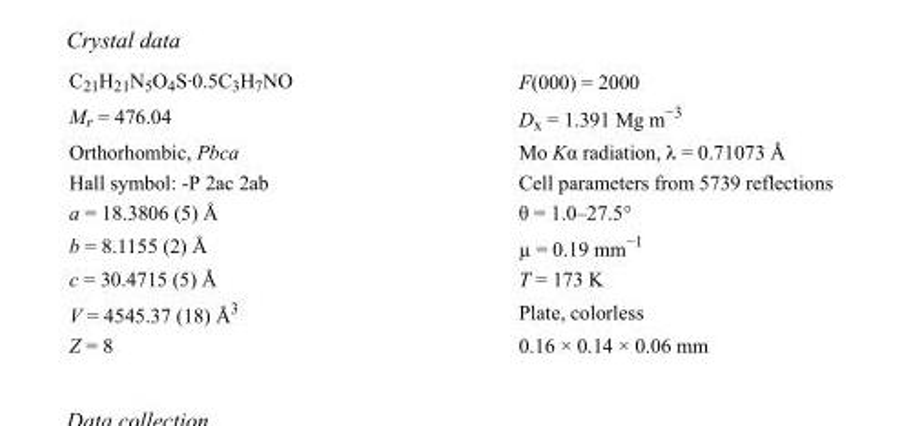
<table><tbody><tr><td>C<sub>21</sub>H<sub>21</sub>N<sub>5</sub>O<sub>4</sub>S·0.5C<sub>3</sub>H<sub>7</sub>NO</td><td>F(000) = 2000</td></tr><tr><td>M<sub>r</sub> = 476.04</td><td>D<sub>x</sub> = 1.391 Mg m<sup>−3</sup></td></tr><tr><td>Orthorhombic, Pbca</td><td>Mo Kα radiation, λ = 0.71073 Å</td></tr><tr><td>Hall symbol: -P 2ac 2ab</td><td>Cell parameters from 5739 reflections</td></tr><tr><td>a = 18.3806 (5) Å</td><td>θ = 1.0–27.5°</td></tr><tr><td>b = 8.1155 (2) Å</td><td>µ = 0.19 mm<sup>−1</sup></td></tr><tr><td>c = 30.4715 (5) Å</td><td>T = 173 K</td></tr><tr><td>V = 4545.37 (18) Å<sup>3</sup></td><td>Plate, colorless</td></tr><tr><td>Z = 8</td><td>0.16 × 0.14 × 0.06 mm</td></tr></tbody></table>